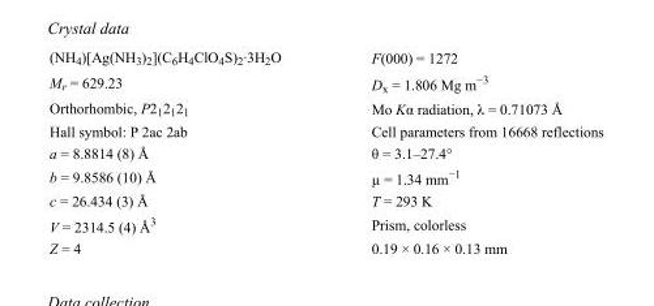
<table><tbody><tr><td>(NH<sub>4</sub>)[Ag(NH<sub>3</sub>)<sub>2</sub>](C<sub>6</sub>H<sub>4</sub>ClO<sub>4</sub>S)<sub>2</sub>·3H<sub>2</sub>O</td><td>F(000) = 1272</td></tr><tr><td>M<sub>r</sub> = 629.23</td><td>D<sub>x</sub> = 1.806 Mg m<sup>−3</sup></td></tr><tr><td>Orthorhombic, P2<sub>1</sub>2<sub>1</sub>2<sub>1</sub></td><td>Mo Kα radiation, λ = 0.71073 Å</td></tr><tr><td>Hall symbol: P 2ac 2ab</td><td>Cell parameters from 16668 reflections</td></tr><tr><td>a = 8.8814 (8) Å</td><td>θ = 3.1–27.4°</td></tr><tr><td>b = 9.8586 (10) Å</td><td>µ = 1.34 mm<sup>−1</sup></td></tr><tr><td>c = 26.434 (3) Å</td><td>T = 293 K</td></tr><tr><td>V = 2314.5 (4) Å<sup>3</sup></td><td>Prism, colorless</td></tr><tr><td>Z = 4</td><td>0.19 × 0.16 × 0.13 mm</td></tr></tbody></table>